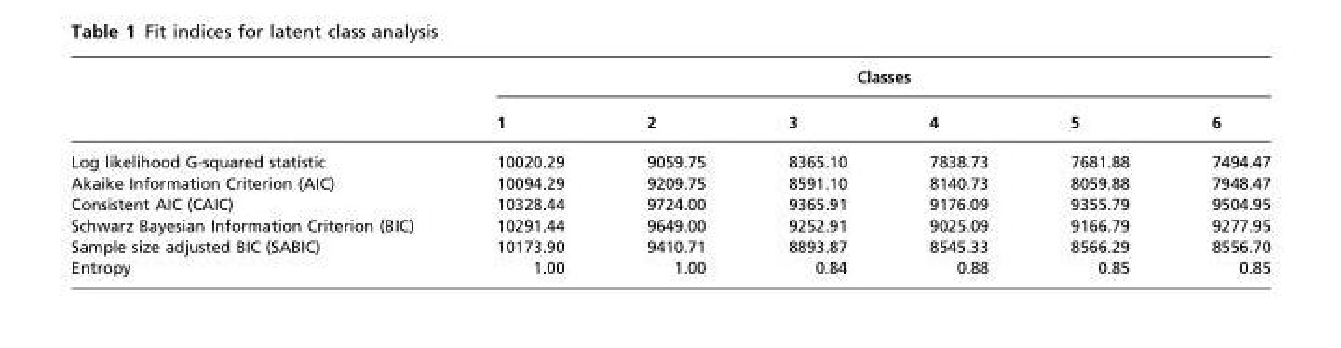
<table><thead><tr><td rowspan="2"></td><td colspan="6">Classes</td></tr><tr><td>1</td><td>2</td><td>3</td><td>4</td><td>5</td><td>6</td></tr></thead><tbody><tr><td>Log likelihood G-squared statistic</td><td>10020.29</td><td>9059.75</td><td>8365.10</td><td>7838.73</td><td>7681.88</td><td>7494.47</td></tr><tr><td>Akaike Information Criterion (AIC)</td><td>10094.29</td><td>9209.75</td><td>8591.10</td><td>8140.73</td><td>8059.88</td><td>7948.47</td></tr><tr><td>Consistent AIC (CAIC)</td><td>10328.44</td><td>9724.00</td><td>9365.91</td><td>9176.09</td><td>9355.79</td><td>9504.95</td></tr><tr><td>Schwarz Bayesian Information Criterion (BIC)</td><td>10291.44</td><td>9649.00</td><td>9252.91</td><td>9025.09</td><td>9166.79</td><td>9277.95</td></tr><tr><td>Sample size adjusted BIC (SABIC)</td><td>10173.90</td><td>9410.71</td><td>8893.87</td><td>8545.33</td><td>8566.29</td><td>8556.70</td></tr><tr><td>Entropy</td><td>1.00</td><td>1.00</td><td>0.84</td><td>0.88</td><td>0.85</td><td>0.85</td></tr></tbody></table>